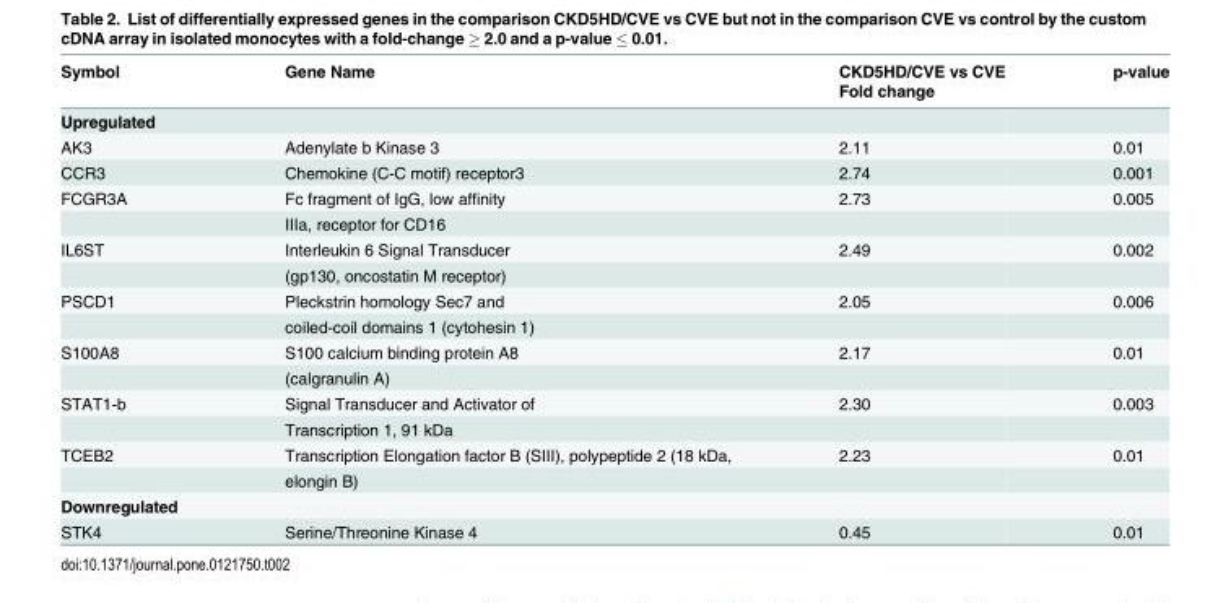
<table><thead><tr><td rowspan="2">Symbol</td><td rowspan="2">Gene Name</td><td rowspan="2">CKD5HD/CVE vs CVE Fold change</td><td rowspan="2">p-value</td></tr><tr></tr></thead><tbody><tr><td colspan="4">Upregulated</td></tr><tr><td>AK3</td><td>Adenylate b Kinase 3</td><td>2.11</td><td>0.01</td></tr><tr><td>CCR3</td><td>Chemokine (C-C motif) receptor3</td><td>2.74</td><td>0.001</td></tr><tr><td rowspan="2">FCGR3A</td><td>Fc fragment of IgG, low affinity</td><td>2.73</td><td>0.005</td></tr><tr><td>IIIa, receptor for CD16</td><td></td><td></td></tr><tr><td rowspan="2">IL6ST</td><td>Interleukin 6 Signal Transducer</td><td>2.49</td><td>0.002</td></tr><tr><td>(gp130, oncostatin M receptor)</td><td></td><td></td></tr><tr><td rowspan="2">PSCD1</td><td>Pleckstrin homology Sec7 and</td><td>2.05</td><td>0.006</td></tr><tr><td>coiled-coil domains 1 (cytohesin 1)</td><td></td><td></td></tr><tr><td rowspan="2">S100A8</td><td>S100 calcium binding protein A8</td><td>2.17</td><td>0.01</td></tr><tr><td>(calgranulin A)</td><td></td><td></td></tr><tr><td rowspan="2">STAT1-b</td><td>Signal Transducer and Activator of</td><td>2.30</td><td>0.003</td></tr><tr><td>Transcription 1, 91 kDa</td><td></td><td></td></tr><tr><td rowspan="2">TCEB2</td><td>Transcription Elongation factor B (SIII), polypeptide 2 (18 kDa,</td><td>2.23</td><td>0.01</td></tr><tr><td>elongin B)</td><td></td><td></td></tr><tr><td colspan="4">Downregulated</td></tr><tr><td>STK4</td><td>Serine/Threonine Kinase 4</td><td>0.45</td><td>0.01</td></tr></tbody></table>